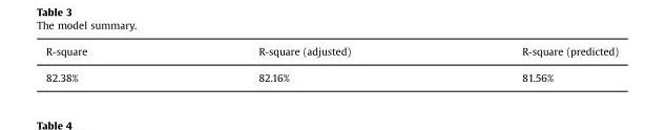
<table><thead><tr><td>R-square</td><td>R-square (adjusted)</td><td>R-square (predicted)</td></tr></thead><tbody><tr><td>82.38%</td><td>82.16%</td><td>81.56%</td></tr></tbody></table>